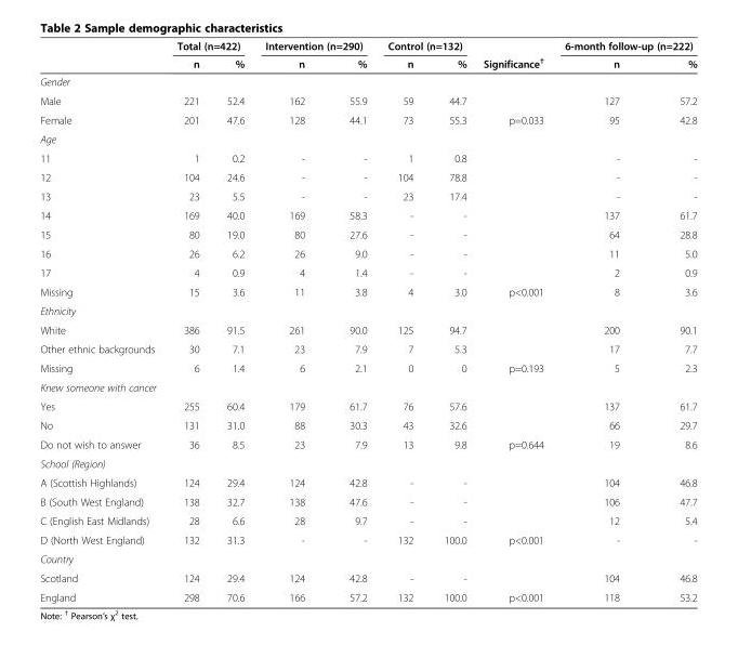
<table><thead><tr><td rowspan="2"></td><td colspan="2">Total (n=422)</td><td colspan="2">Intervention (n=290)</td><td colspan="2">Control (n=132)</td><td rowspan="2">Significance<sup>†</sup></td><td colspan="2">6-month follow-up (n=222)</td></tr><tr><td>n</td><td>%</td><td>n</td><td>%</td><td>n</td><td>%</td><td>n</td><td>%</td></tr></thead><tbody><tr><td colspan="10">Gender</td></tr><tr><td>Male</td><td>221</td><td>52.4</td><td>162</td><td>55.9</td><td>59</td><td>44.7</td><td></td><td>127</td><td>57.2</td></tr><tr><td>Female</td><td>201</td><td>47.6</td><td>128</td><td>44.1</td><td>73</td><td>55.3</td><td>p=0.033</td><td>95</td><td>42.8</td></tr><tr><td colspan="10">Age</td></tr><tr><td>11</td><td>1</td><td>0.2</td><td>-</td><td>-</td><td>1</td><td>0.8</td><td></td><td>-</td><td>-</td></tr><tr><td>12</td><td>104</td><td>24.6</td><td>-</td><td>-</td><td>104</td><td>78.8</td><td></td><td>-</td><td>-</td></tr><tr><td>13</td><td>23</td><td>5.5</td><td>-</td><td>-</td><td>23</td><td>17.4</td><td></td><td>-</td><td>-</td></tr><tr><td>14</td><td>169</td><td>40.0</td><td>169</td><td>58.3</td><td>-</td><td>-</td><td></td><td>137</td><td>61.7</td></tr><tr><td>15</td><td>80</td><td>19.0</td><td>80</td><td>27.6</td><td>-</td><td>-</td><td></td><td>64</td><td>28.8</td></tr><tr><td>16</td><td>26</td><td>6.2</td><td>26</td><td>9.0</td><td>-</td><td>-</td><td></td><td>11</td><td>5.0</td></tr><tr><td>17</td><td>4</td><td>0.9</td><td>4</td><td>1.4</td><td>-</td><td>-</td><td></td><td>2</td><td>0.9</td></tr><tr><td>Missing</td><td>15</td><td>3.6</td><td>11</td><td>3.8</td><td>4</td><td>3.0</td><td>p&lt;0.001</td><td>8</td><td>3.6</td></tr><tr><td colspan="10">Ethnicity</td></tr><tr><td>White</td><td>386</td><td>91.5</td><td>261</td><td>90.0</td><td>125</td><td>94.7</td><td></td><td>200</td><td>90.1</td></tr><tr><td>Other ethnic backgrounds</td><td>30</td><td>7.1</td><td>23</td><td>7.9</td><td>7</td><td>5.3</td><td></td><td>17</td><td>7.7</td></tr><tr><td>Missing</td><td>6</td><td>1.4</td><td>6</td><td>2.1</td><td>0</td><td>0</td><td>p=0.193</td><td>5</td><td>2.3</td></tr><tr><td colspan="10">Knew someone with cancer</td></tr><tr><td>Yes</td><td>255</td><td>60.4</td><td>179</td><td>61.7</td><td>76</td><td>57.6</td><td></td><td>137</td><td>61.7</td></tr><tr><td>No</td><td>131</td><td>31.0</td><td>88</td><td>30.3</td><td>43</td><td>32.6</td><td></td><td>66</td><td>29.7</td></tr><tr><td>Do not wish to answer</td><td>36</td><td>8.5</td><td>23</td><td>7.9</td><td>13</td><td>9.8</td><td>p=0.644</td><td>19</td><td>8.6</td></tr><tr><td colspan="10">School (Region)</td></tr><tr><td>A (Scottish Highlands)</td><td>124</td><td>29.4</td><td>124</td><td>42.8</td><td>-</td><td>-</td><td></td><td>104</td><td>46.8</td></tr><tr><td>B (South West England)</td><td>138</td><td>32.7</td><td>138</td><td>47.6</td><td>-</td><td>-</td><td></td><td>106</td><td>47.7</td></tr><tr><td>C (English East Midlands)</td><td>28</td><td>6.6</td><td>28</td><td>9.7</td><td>-</td><td>-</td><td></td><td>12</td><td>5.4</td></tr><tr><td>D (North West England)</td><td>132</td><td>31.3</td><td>-</td><td>-</td><td>132</td><td>100.0</td><td>p&lt;0.001</td><td>-</td><td>-</td></tr><tr><td colspan="10">Country</td></tr><tr><td>Scotland</td><td>124</td><td>29.4</td><td>124</td><td>42.8</td><td>-</td><td>-</td><td></td><td>104</td><td>46.8</td></tr><tr><td>England</td><td>298</td><td>70.6</td><td>166</td><td>57.2</td><td>132</td><td>100.0</td><td>p&lt;0.001</td><td>118</td><td>53.2</td></tr></tbody></table>